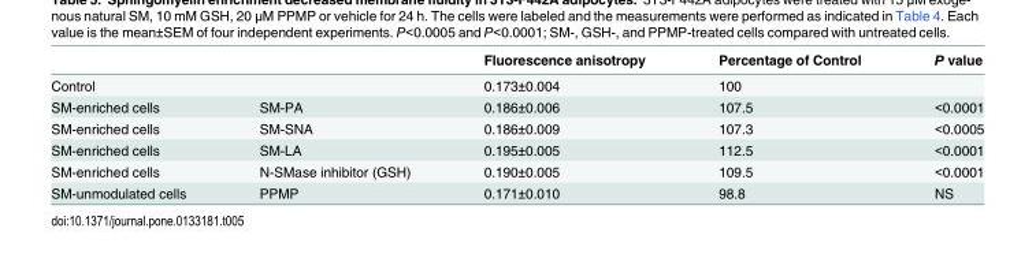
<table><thead><tr><td></td><td></td><td>Fluorescence anisotropy</td><td>Percentage of Control</td><td>P value</td></tr></thead><tbody><tr><td>Control</td><td></td><td>0.173±0.004</td><td>100</td><td></td></tr><tr><td>SM-enriched cells</td><td>SM-PA</td><td>0.186±0.006</td><td>107.5</td><td>&lt;0.0001</td></tr><tr><td>SM-enriched cells</td><td>SM-SNA</td><td>0.186±0.009</td><td>107.3</td><td>&lt;0.0005</td></tr><tr><td>SM-enriched cells</td><td>SM-LA</td><td>0.195±0.005</td><td>112.5</td><td>&lt;0.0001</td></tr><tr><td>SM-enriched cells</td><td>N-SMase inhibitor (GSH)</td><td>0.190±0.005</td><td>109.5</td><td>&lt;0.0001</td></tr><tr><td>SM-unmodulated cells</td><td>PPMP</td><td>0.171±0.010</td><td>98.8</td><td>NS</td></tr></tbody></table>